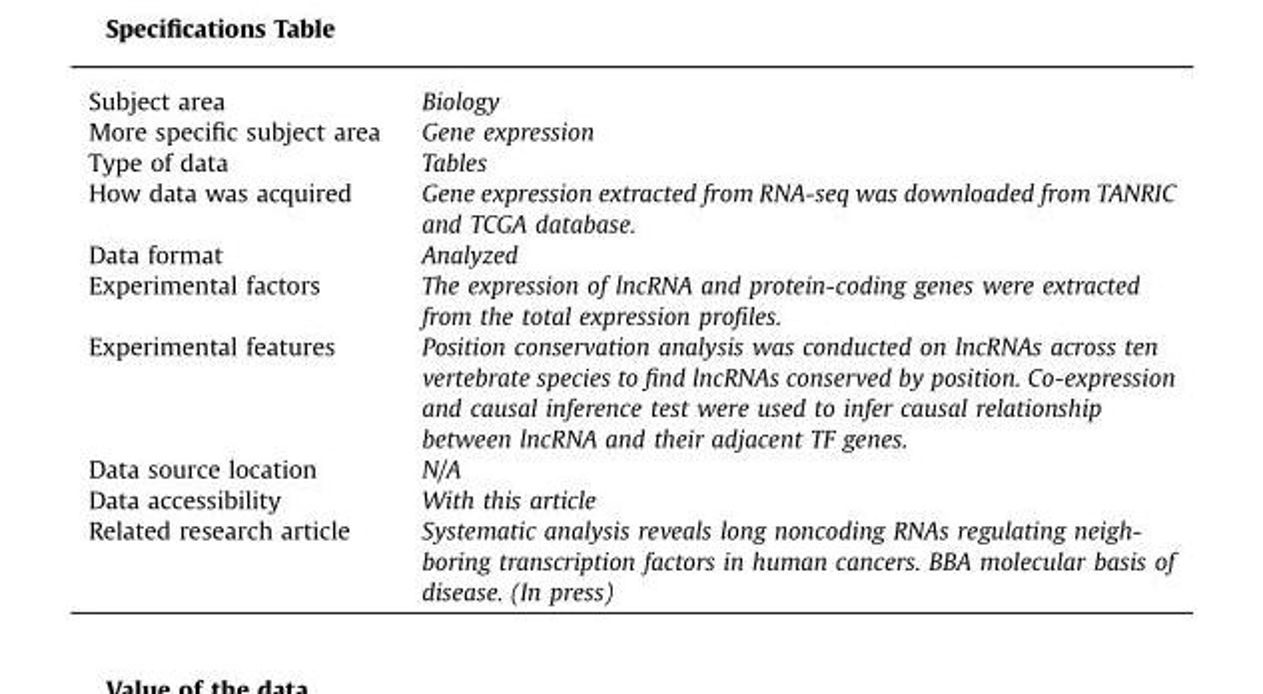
<table><thead><tr><td>Subject area</td><td>Biology</td></tr></thead><tbody><tr><td>More specific subject area</td><td>Gene expression</td></tr><tr><td>Type of data</td><td>Tables</td></tr><tr><td>How data was acquired</td><td>Gene expression extracted from RNA-seq was downloaded from TANRIC and TCGA database.</td></tr><tr><td>Data format</td><td>Analyzed</td></tr><tr><td>Experimental factors</td><td>The expression of lncRNA and protein-coding genes were extracted from the total expression profiles.</td></tr><tr><td>Experimental features</td><td>Position conservation analysis was conducted on lncRNAs across ten vertebrate species to find lncRNAs conserved by position. Co-expression and causal inference test were used to infer causal relationship between lncRNA and their adjacent TF genes.</td></tr><tr><td>Data source location</td><td>N/A</td></tr><tr><td>Data accessibility</td><td>With this article</td></tr><tr><td>Related research article</td><td>Systematic analysis reveals long noncoding RNAs regulating neigh- boring transcription factors in human cancers. BBA molecular basis of disease. (In press)</td></tr></tbody></table>